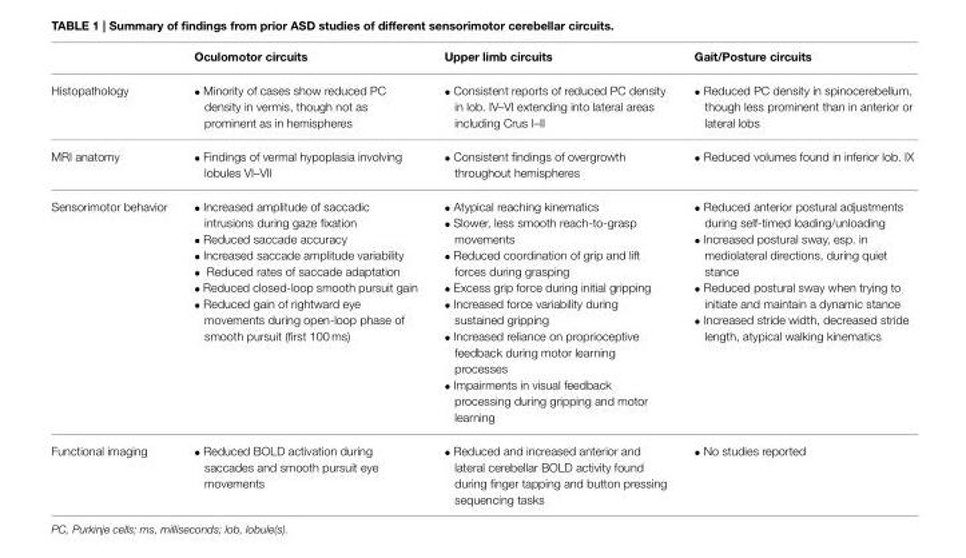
<table><thead><tr><td></td><td>Oculomotor circuits</td><td>Upper limb circuits</td><td>Gait/Posture circuits</td></tr></thead><tbody><tr><td>Histopathology</td><td>• Minority of cases show reduced PC density in vermis, though not as prominent as in hemispheres</td><td>• Consistent reports of reduced PC density in lob. IV–VI extending into lateral areas including Crus I–II</td><td>• Reduced PC density in spinocerebellum, though less prominent than in anterior or lateral lobs</td></tr><tr><td>MRI anatomy</td><td>• Findings of vermal hypoplasia involving lobules VI–VII</td><td>• Consistent findings of overgrowth throughout hemispheres</td><td>• Reduced volumes found in inferior lob. IX</td></tr><tr><td>Sensorimotor behavior</td><td>• Increased amplitude of saccadic intrusions during gaze fixation • Reduced saccade accuracy • Increased saccade amplitude variability • Reduced rates of saccade adaptation • Reduced closed-loop smooth pursuit gain • Reduced gain of rightward eye movements during open-loop phase of smooth pursuit (first 100 ms)</td><td>• Atypical reaching kinematics • Slower, less smooth reach-to-grasp movements • Reduced coordination of grip and lift forces during grasping • Excess grip force during initial gripping • Increased force variability during sustained gripping • Increased reliance on proprioceptive feedback during motor learning processes • Impairments in visual feedback processing during gripping and motor learning</td><td>• Reduced anterior postural adjustments during self-timed loading/unloading • Increased postural sway, esp. in mediolateral directions, during quiet stance • Reduced postural sway when trying to initiate and maintain a dynamic stance • Increased stride width, decreased stride length, atypical walking kinematics</td></tr><tr><td>Functional imaging</td><td>• Reduced BOLD activation during saccades and smooth pursuit eye movements</td><td>• Reduced and increased anterior and lateral cerebellar BOLD activity found during finger tapping and button pressing sequencing tasks</td><td>• No studies reported</td></tr></tbody></table>